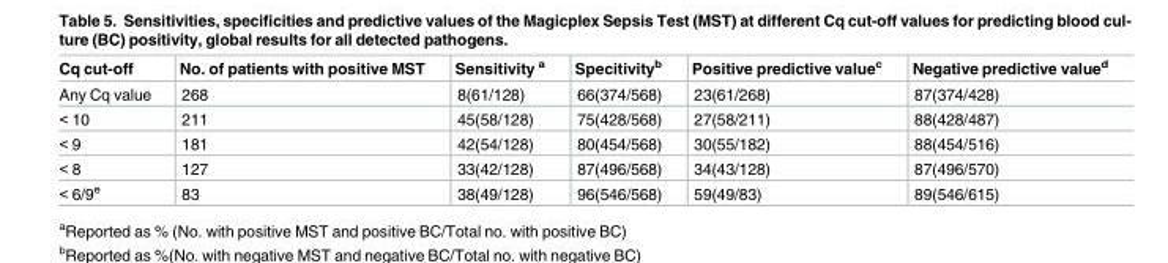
<table><thead><tr><td>Cq cut-off</td><td>No. of patients with positive MST</td><td>Sensitivity <sup>a</sup></td><td>Specitivity<sup>b</sup></td><td>Positive predictive value<sup>c</sup></td><td>Negative predictive value<sup>d</sup></td></tr></thead><tbody><tr><td>Any Cq value</td><td>268</td><td>8(61/128)</td><td>66(374/568)</td><td>23(61/268)</td><td>87(374/428)</td></tr><tr><td>&lt; 10</td><td>211</td><td>45(58/128)</td><td>75(428/568)</td><td>27(58/211)</td><td>88(428/487)</td></tr><tr><td>&lt; 9</td><td>181</td><td>42(54/128)</td><td>80(454/568)</td><td>30(55/182)</td><td>88(454/516)</td></tr><tr><td>&lt; 8</td><td>127</td><td>33(42/128)</td><td>87(496/568)</td><td>34(43/128)</td><td>87(496/570)</td></tr><tr><td>&lt; 6/9<sup>e</sup></td><td>83</td><td>38(49/128)</td><td>96(546/568)</td><td>59(49/83)</td><td>89(546/615)</td></tr></tbody></table>